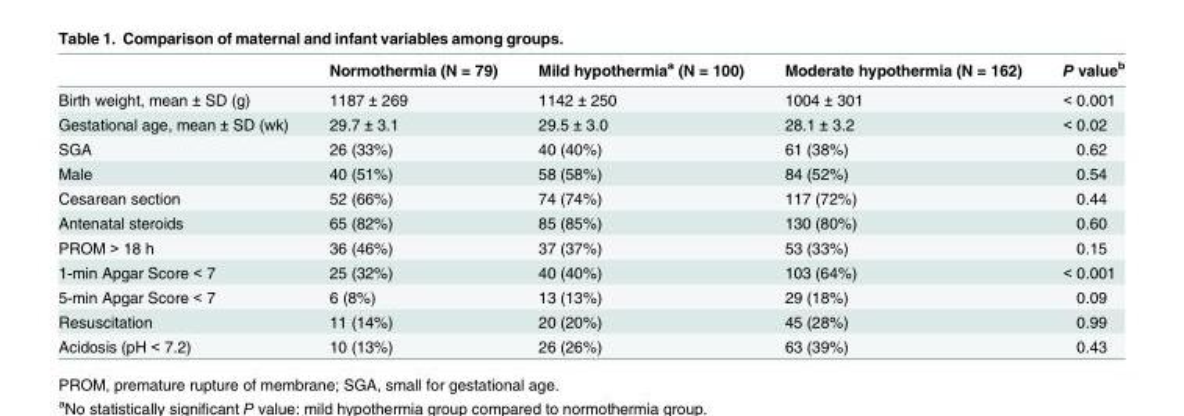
<table><thead><tr><td></td><td>Normothermia (N = 79)</td><td>Mild hypothermia<sup>a</sup> (N = 100)</td><td>Moderate hypothermia (N = 162)</td><td>P value<sup>b</sup></td></tr></thead><tbody><tr><td>Birth weight, mean ± SD (g)</td><td>1187 ± 269</td><td>1142 ± 250</td><td>1004 ± 301</td><td>&lt; 0.001</td></tr><tr><td>Gestational age, mean ± SD (wk)</td><td>29.7 ± 3.1</td><td>29.5 ± 3.0</td><td>28.1 ± 3.2</td><td>&lt; 0.02</td></tr><tr><td>SGA</td><td>26 (33%)</td><td>40 (40%)</td><td>61 (38%)</td><td>0.62</td></tr><tr><td>Male</td><td>40 (51%)</td><td>58 (58%)</td><td>84 (52%)</td><td>0.54</td></tr><tr><td>Cesarean section</td><td>52 (66%)</td><td>74 (74%)</td><td>117 (72%)</td><td>0.44</td></tr><tr><td>Antenatal steroids</td><td>65 (82%)</td><td>85 (85%)</td><td>130 (80%)</td><td>0.60</td></tr><tr><td>PROM &gt; 18 h</td><td>36 (46%)</td><td>37 (37%)</td><td>53 (33%)</td><td>0.15</td></tr><tr><td>1-min Apgar Score &lt; 7</td><td>25 (32%)</td><td>40 (40%)</td><td>103 (64%)</td><td>&lt; 0.001</td></tr><tr><td>5-min Apgar Score &lt; 7</td><td>6 (8%)</td><td>13 (13%)</td><td>29 (18%)</td><td>0.09</td></tr><tr><td>Resuscitation</td><td>11 (14%)</td><td>20 (20%)</td><td>45 (28%)</td><td>0.99</td></tr><tr><td>Acidosis (pH &lt; 7.2)</td><td>10 (13%)</td><td>26 (26%)</td><td>63 (39%)</td><td>0.43</td></tr></tbody></table>